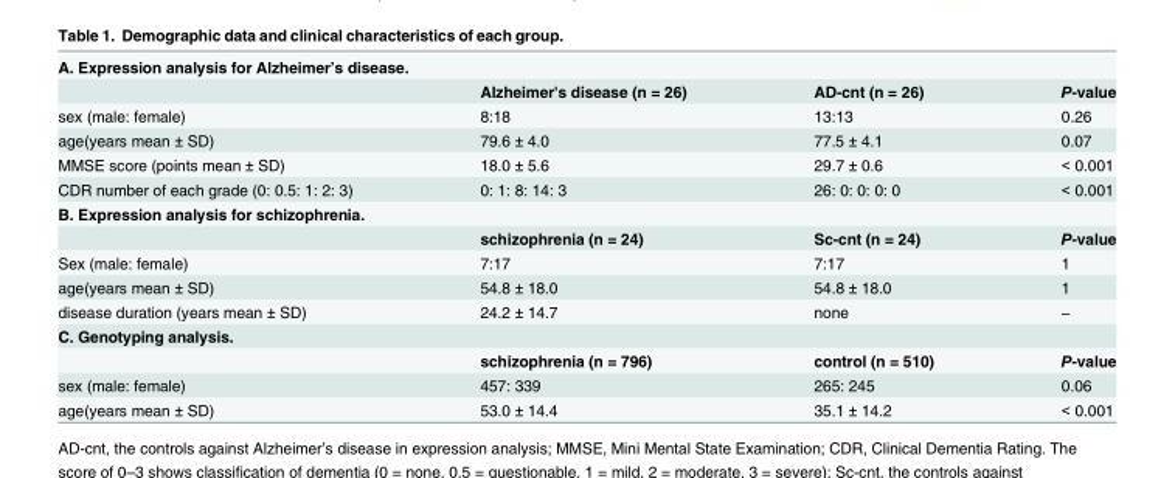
<table><tbody><tr><td colspan="4">A. Expression analysis for Alzheimer’s disease.</td></tr><tr><td></td><td>Alzheimer&#x27;s disease (n = 26)</td><td>AD-cnt (n = 26)</td><td>P-value</td></tr><tr><td>sex (male: female)</td><td>8:18</td><td>13:13</td><td>0.26</td></tr><tr><td>age(years mean ± SD)</td><td>79.6 ± 4.0</td><td>77.5 ± 4.1</td><td>0.07</td></tr><tr><td>MMSE score (points mean ± SD)</td><td>18.0 ± 5.6</td><td>29.7 ± 0.6</td><td>&lt; 0.001</td></tr><tr><td>CDR number of each grade (0: 0.5: 1: 2: 3)</td><td>0: 1: 8: 14: 3</td><td>26: 0: 0: 0: 0</td><td>&lt; 0.001</td></tr><tr><td colspan="4">B. Expression analysis for schizophrenia.</td></tr><tr><td></td><td>schizophrenia (n = 24)</td><td>Sc-cnt (n = 24)</td><td>P-value</td></tr><tr><td>Sex (male: female)</td><td>7:17</td><td>7:17</td><td>1</td></tr><tr><td>age(years mean ± SD)</td><td>54.8 ± 18.0</td><td>54.8 ± 18.0</td><td>1</td></tr><tr><td>disease duration (years mean ± SD)</td><td>24.2 ± 14.7</td><td>none</td><td>―</td></tr><tr><td colspan="4">C. Genotyping analysis.</td></tr><tr><td></td><td>schizophrenia (n = 796)</td><td>control (n = 510)</td><td>P-value</td></tr><tr><td>sex (male: female)</td><td>457: 339</td><td>265: 245</td><td>0.06</td></tr><tr><td>age(years mean ± SD)</td><td>53.0 ± 14.4</td><td>35.1 ± 14.2</td><td>&lt; 0.001</td></tr></tbody></table>